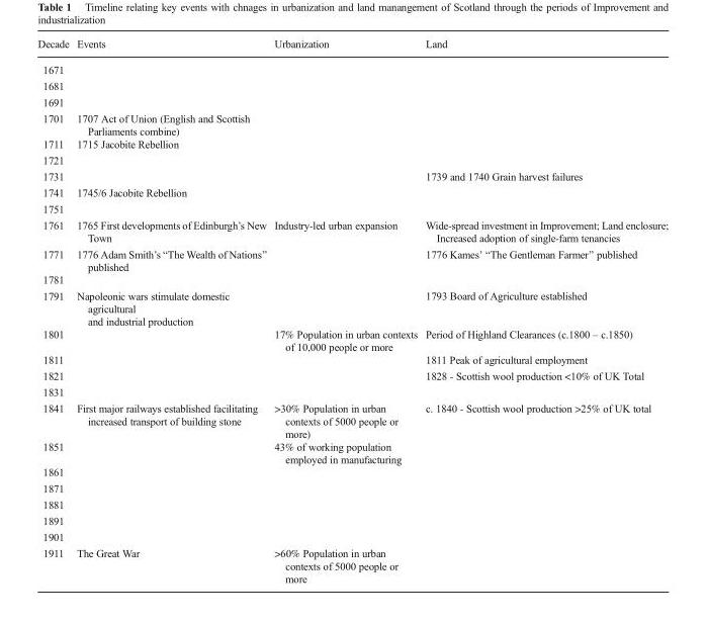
<table><thead><tr><td>Decade</td><td>Events</td><td>Urbanization</td><td>Land</td></tr></thead><tbody><tr><td colspan="4">1671</td></tr><tr><td colspan="4">1681</td></tr><tr><td colspan="4">1691</td></tr><tr><td>1701</td><td>1707 Act of Union (English and Scottish Parliaments combine)</td><td></td><td></td></tr><tr><td>1711</td><td>1715 Jacobite Rebellion</td><td></td><td></td></tr><tr><td colspan="4">1721</td></tr><tr><td>1731</td><td></td><td></td><td>1739 and 1740 Grain harvest failures</td></tr><tr><td>1741</td><td>1745/6 Jacobite Rebellion</td><td></td><td></td></tr><tr><td colspan="4">1751</td></tr><tr><td>1761</td><td>1765 First developments of Edinburgh’s New Town</td><td>Industry-led urban expansion</td><td>Wide-spread investment in Improvement; Land enclosure; Increased adoption of single-farm tenancies</td></tr><tr><td>1771</td><td>1776 Adam Smith’s “The Wealth of Nations” published</td><td></td><td>1776 Kames’ “The Gentleman Farmer” published</td></tr><tr><td colspan="4">1781</td></tr><tr><td>1791</td><td>Napoleonic wars stimulate domestic agricultural and industrial production</td><td></td><td>1793 Board of Agriculture established</td></tr><tr><td>1801</td><td></td><td>17% Population in urban contexts of 10,000 people or more</td><td>Period of Highland Clearances (c.1800 – c.1850)</td></tr><tr><td>1811</td><td></td><td></td><td>1811 Peak of agricultural employment</td></tr><tr><td>1821</td><td></td><td></td><td>1828 - Scottish wool production &lt;10% of UK Total</td></tr><tr><td colspan="4">1831</td></tr><tr><td>1841</td><td>First major railways established facilitating increased transport of building stone</td><td>&gt;30% Population in urban contexts of 5000 people or more)</td><td>c. 1840 - Scottish wool production &gt;25% of UK total</td></tr><tr><td>1851</td><td></td><td>43% of working population employed in manufacturing</td><td></td></tr><tr><td colspan="4">1861</td></tr><tr><td colspan="4">1871</td></tr><tr><td colspan="4">1881</td></tr><tr><td colspan="4">1891</td></tr><tr><td colspan="4">1901</td></tr><tr><td>1911</td><td>The Great War</td><td>&gt;60% Population in urban contexts of 5000 people or more</td><td></td></tr></tbody></table>